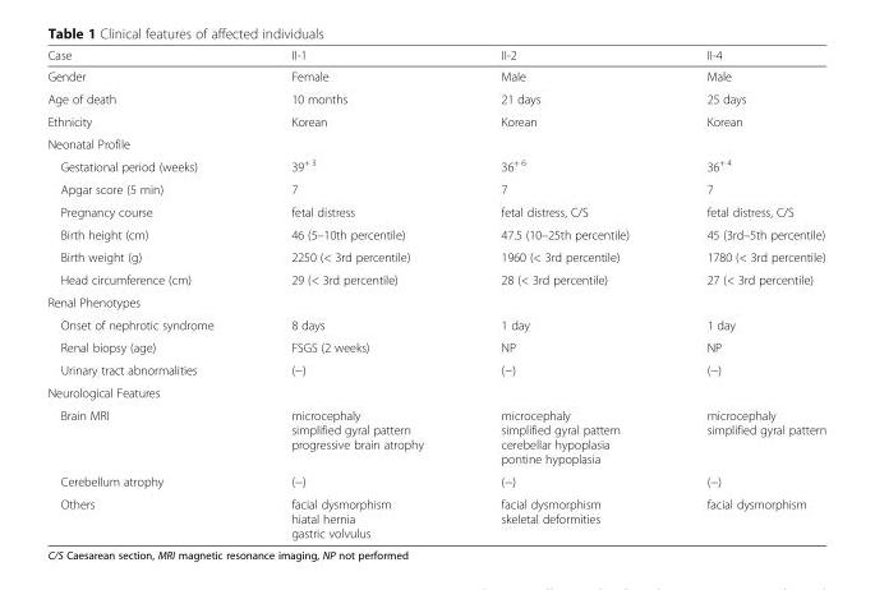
<table><thead><tr><td>Case</td><td>II-1</td><td>II-2</td><td>II-4</td></tr></thead><tbody><tr><td>Gender</td><td>Female</td><td>Male</td><td>Male</td></tr><tr><td>Age of death</td><td>10 months</td><td>21 days</td><td>25 days</td></tr><tr><td>Ethnicity</td><td>Korean</td><td>Korean</td><td>Korean</td></tr><tr><td colspan="4">Neonatal Profile</td></tr><tr><td>Gestational period (weeks)</td><td>39<sup>+ 3</sup></td><td>36<sup>+ 6</sup></td><td>36<sup>+ 4</sup></td></tr><tr><td>Apgar score (5 min)</td><td>7</td><td>7</td><td>7</td></tr><tr><td>Pregnancy course</td><td>fetal distress</td><td>fetal distress, C/S</td><td>fetal distress, C/S</td></tr><tr><td>Birth height (cm)</td><td>46 (5–10th percentile)</td><td>47.5 (10–25th percentile)</td><td>45 (3rd–5th percentile)</td></tr><tr><td>Birth weight (g)</td><td>2250 (&lt; 3rd percentile)</td><td>1960 (&lt; 3rd percentile)</td><td>1780 (&lt; 3rd percentile)</td></tr><tr><td>Head circumference (cm)</td><td>29 (&lt; 3rd percentile)</td><td>28 (&lt; 3rd percentile)</td><td>27 (&lt; 3rd percentile)</td></tr><tr><td colspan="4">Renal Phenotypes</td></tr><tr><td>Onset of nephrotic syndrome</td><td>8 days</td><td>1 day</td><td>1 day</td></tr><tr><td>Renal biopsy (age)</td><td>FSGS (2 weeks)</td><td>NP</td><td>NP</td></tr><tr><td>Urinary tract abnormalities</td><td>(−)</td><td>(−)</td><td>(−)</td></tr><tr><td colspan="4">Neurological Features</td></tr><tr><td>Brain MRI</td><td>microcephaly simplified gyral pattern progressive brain atrophy</td><td>microcephaly simplified gyral pattern cerebellar hypoplasia pontine hypoplasia</td><td>microcephaly simplified gyral pattern</td></tr><tr><td>Cerebellum atrophy</td><td>(−)</td><td>(−)</td><td>(−)</td></tr><tr><td>Others</td><td>facial dysmorphism hiatal hernia gastric volvulus</td><td>facial dysmorphism skeletal deformities</td><td>facial dysmorphism</td></tr></tbody></table>